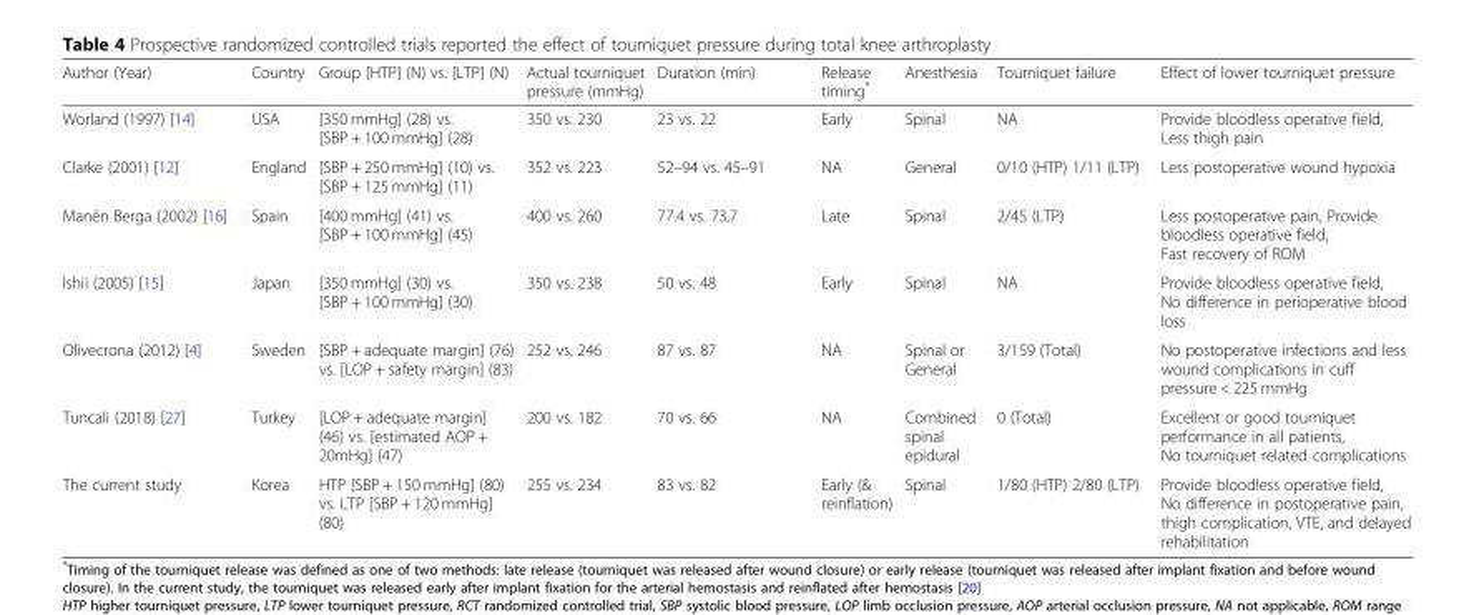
<table><thead><tr><td>Author (Year)</td><td>Country</td><td>Group [HTP] (N) vs. [LTP] (N)</td><td>Actual tourniquet pressure (mmHg)</td><td>Duration (min)</td><td>Release timing*</td><td>Anesthesia</td><td>Tourniquet failure</td><td>Effect of lower tourniquet pressure</td></tr></thead><tbody><tr><td>Worland (1997) [14]</td><td>USA</td><td>[350 mmHg] (28) vs. [SBP + 100 mmHg] (28)</td><td>350 vs. 230</td><td>23 vs. 22</td><td>Early</td><td>Spinal</td><td>NA</td><td>Provide bloodless operative field, Less thigh pain</td></tr><tr><td>Clarke (2001) [12]</td><td>England</td><td>[SBP + 250 mmHg] (10) vs. [SBP + 125 mmHg] (11)</td><td>352 vs. 223</td><td>52–94 vs. 45–91</td><td>NA</td><td>General</td><td>0/10 (HTP) 1/11 (LTP)</td><td>Less postoperative wound hypoxia</td></tr><tr><td>Manén Berga (2002) [16]</td><td>Spain</td><td>[400 mmHg] (41) vs. [SBP + 100 mmHg] (45)</td><td>400 vs. 260</td><td>77.4 vs. 73.7</td><td>Late</td><td>Spinal</td><td>2/45 (LTP)</td><td>Less postoperative pain, Provide bloodless operative field, Fast recovery of ROM</td></tr><tr><td>Ishii (2005) [15]</td><td>Japan</td><td>[350 mmHg] (30) vs. [SBP + 100 mmHg] (30)</td><td>350 vs. 238</td><td>50 vs. 48</td><td>Early</td><td>Spinal</td><td>NA</td><td>Provide bloodless operative field, No difference in perioperative blood loss</td></tr><tr><td>Olivecrona (2012) [4]</td><td>Sweden</td><td>[SBP + adequate margin] (76) vs. [LOP + safety margin] (83)</td><td>252 vs. 246</td><td>87 vs. 87</td><td>NA</td><td>Spinal or General</td><td>3/159 (Total)</td><td>No postoperative infections and less wound complications in cuff pressure &lt; 225 mmHg</td></tr><tr><td>Tuncali (2018) [27]</td><td>Turkey</td><td>[LOP + adequate margin] (46) vs. [estimated AOP + 20mHg] (47)</td><td>200 vs. 182</td><td>70 vs. 66</td><td>NA</td><td>Combined spinal epidural</td><td>0 (Total)</td><td>Excellent or good tourniquet performance in all patients, No tourniquet related complications</td></tr><tr><td>The current study</td><td>Korea</td><td>HTP [SBP + 150 mmHg] (80) vs. LTP [SBP + 120 mmHg] (80)</td><td>255 vs. 234</td><td>83 vs. 82</td><td>Early (&amp; reinflation)</td><td>Spinal</td><td>1/80 (HTP) 2/80 (LTP)</td><td>Provide bloodless operative field, No difference in postoperative pain, thigh complication, VTE, and delayed rehabilitation</td></tr></tbody></table>